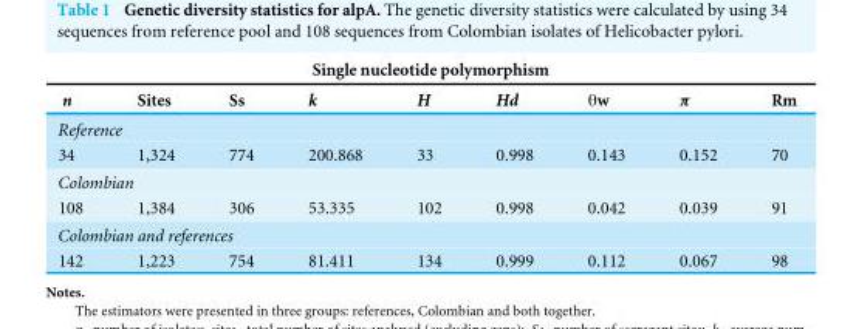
<table><thead><tr><td colspan="9">Single nucleotide polymorphism</td></tr><tr><td>n</td><td>Sites</td><td>Ss</td><td>k</td><td>H</td><td>Hd</td><td>θw</td><td>π</td><td>Rm</td></tr></thead><tbody><tr><td colspan="9">Reference</td></tr><tr><td>34</td><td>1,324</td><td>774</td><td>200.868</td><td>33</td><td>0.998</td><td>0.143</td><td>0.152</td><td>70</td></tr><tr><td colspan="9">Colombian</td></tr><tr><td>108</td><td>1,384</td><td>306</td><td>53.335</td><td>102</td><td>0.998</td><td>0.042</td><td>0.039</td><td>91</td></tr><tr><td colspan="9">Colombian and references</td></tr><tr><td>142</td><td>1,223</td><td>754</td><td>81.411</td><td>134</td><td>0.999</td><td>0.112</td><td>0.067</td><td>98</td></tr></tbody></table>